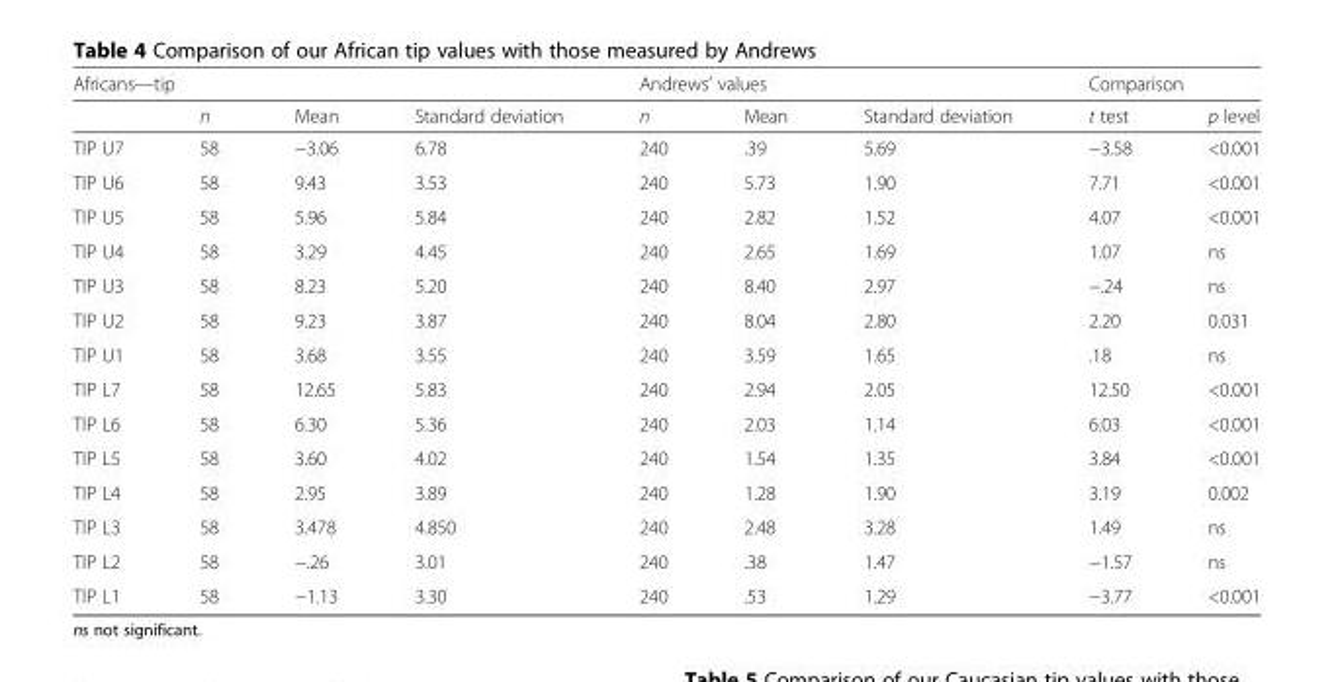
<table><thead><tr><td colspan="4">Africans—tip</td><td colspan="3">Andrews’ values</td><td colspan="2">Comparison</td></tr><tr><td></td><td>n</td><td>Mean</td><td>Standard deviation</td><td>n</td><td>Mean</td><td>Standard deviation</td><td>t test</td><td>p level</td></tr></thead><tbody><tr><td>TIP U7</td><td>58</td><td>−3.06</td><td>6.78</td><td>240</td><td>.39</td><td>5.69</td><td>−3.58</td><td>&lt;0.001</td></tr><tr><td>TIP U6</td><td>58</td><td>9.43</td><td>3.53</td><td>240</td><td>5.73</td><td>1.90</td><td>7.71</td><td>&lt;0.001</td></tr><tr><td>TIP U5</td><td>58</td><td>5.96</td><td>5.84</td><td>240</td><td>2.82</td><td>1.52</td><td>4.07</td><td>&lt;0.001</td></tr><tr><td>TIP U4</td><td>58</td><td>3.29</td><td>4.45</td><td>240</td><td>2.65</td><td>1.69</td><td>1.07</td><td>ns</td></tr><tr><td>TIP U3</td><td>58</td><td>8.23</td><td>5.20</td><td>240</td><td>8.40</td><td>2.97</td><td>−.24</td><td>ns</td></tr><tr><td>TIP U2</td><td>58</td><td>9.23</td><td>3.87</td><td>240</td><td>8.04</td><td>2.80</td><td>2.20</td><td>0.031</td></tr><tr><td>TIP U1</td><td>58</td><td>3.68</td><td>3.55</td><td>240</td><td>3.59</td><td>1.65</td><td>.18</td><td>ns</td></tr><tr><td>TIP L7</td><td>58</td><td>12.65</td><td>5.83</td><td>240</td><td>2.94</td><td>2.05</td><td>12.50</td><td>&lt;0.001</td></tr><tr><td>TIP L6</td><td>58</td><td>6.30</td><td>5.36</td><td>240</td><td>2.03</td><td>1.14</td><td>6.03</td><td>&lt;0.001</td></tr><tr><td>TIP L5</td><td>58</td><td>3.60</td><td>4.02</td><td>240</td><td>1.54</td><td>1.35</td><td>3.84</td><td>&lt;0.001</td></tr><tr><td>TIP L4</td><td>58</td><td>2.95</td><td>3.89</td><td>240</td><td>1.28</td><td>1.90</td><td>3.19</td><td>0.002</td></tr><tr><td>TIP L3</td><td>58</td><td>3.478</td><td>4.850</td><td>240</td><td>2.48</td><td>3.28</td><td>1.49</td><td>ns</td></tr><tr><td>TIP L2</td><td>58</td><td>−.26</td><td>3.01</td><td>240</td><td>.38</td><td>1.47</td><td>−1.57</td><td>ns</td></tr><tr><td>TIP L1</td><td>58</td><td>−1.13</td><td>3.30</td><td>240</td><td>.53</td><td>1.29</td><td>−3.77</td><td>&lt;0.001</td></tr></tbody></table>